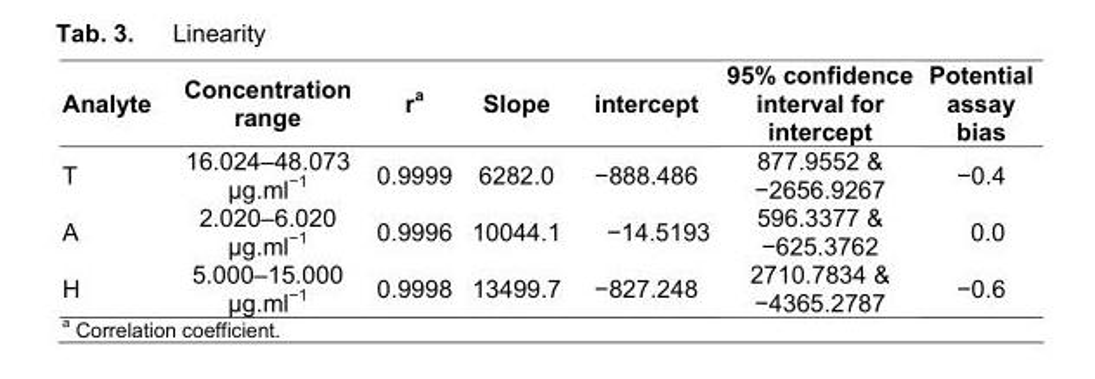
<table><thead><tr><td>Analyte</td><td>Concentration range</td><td>r<sup>a</sup></td><td>Slope</td><td>intercept</td><td>95% confidence interval for intercept</td><td>Potential assay bias</td></tr></thead><tbody><tr><td>T</td><td>16.024–48.073 µg.ml<sup>−1</sup></td><td>0.9999</td><td>6282.0</td><td>−888.486</td><td>877.9552 &amp; −2656.9267</td><td>−0.4</td></tr><tr><td>A</td><td>2.020–6.020 µg.ml<sup>−1</sup></td><td>0.9996</td><td>10044.1</td><td>−14.5193</td><td>596.3377 &amp; −625.3762</td><td>0.0</td></tr><tr><td>H</td><td>5.000–15.000 µg.ml<sup>−1</sup></td><td>0.9998</td><td>13499.7</td><td>−827.248</td><td>2710.7834 &amp; −4365.2787</td><td>−0.6</td></tr></tbody></table>